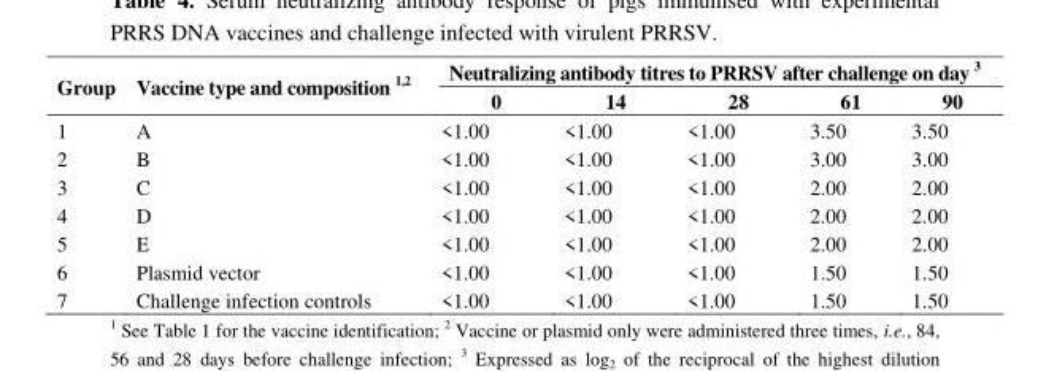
<table><thead><tr><td rowspan="2">Group</td><td rowspan="2">Vaccine type and composition <sup>1,2</sup></td><td colspan="5">Neutralizing antibody titres to PRRSV after challenge on day <sup>3</sup></td></tr><tr><td>0</td><td>14</td><td>28</td><td>61</td><td>90</td></tr></thead><tbody><tr><td>1</td><td>A</td><td>&lt;1.00</td><td>&lt;1.00</td><td>&lt;1.00</td><td>3.50</td><td>3.50</td></tr><tr><td>2</td><td>B</td><td>&lt;1.00</td><td>&lt;1.00</td><td>&lt;1.00</td><td>3.00</td><td>3.00</td></tr><tr><td>3</td><td>C</td><td>&lt;1.00</td><td>&lt;1.00</td><td>&lt;1.00</td><td>2.00</td><td>2.00</td></tr><tr><td>4</td><td>D</td><td>&lt;1.00</td><td>&lt;1.00</td><td>&lt;1.00</td><td>2.00</td><td>2.00</td></tr><tr><td>5</td><td>E</td><td>&lt;1.00</td><td>&lt;1.00</td><td>&lt;1.00</td><td>2.00</td><td>2.00</td></tr><tr><td>6</td><td>Plasmid vector</td><td>&lt;1.00</td><td>&lt;1.00</td><td>&lt;1.00</td><td>1.50</td><td>1.50</td></tr><tr><td>7</td><td>Challenge infection controls</td><td>&lt;1.00</td><td>&lt;1.00</td><td>&lt;1.00</td><td>1.50</td><td>1.50</td></tr></tbody></table>